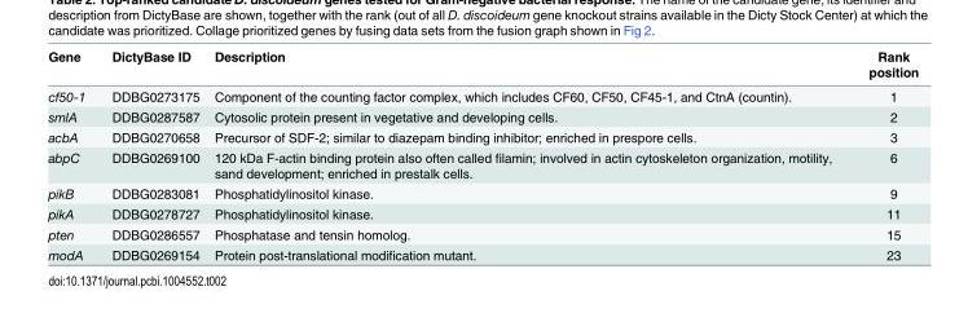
<table><thead><tr><td>Gene</td><td>DictyBase ID</td><td>Description</td><td>Rank position</td></tr></thead><tbody><tr><td>cf50-1</td><td>DDBG0273175</td><td>Component of the counting factor complex, which includes CF60, CF50, CF45-1, and CtnA (countin).</td><td>1</td></tr><tr><td>smlA</td><td>DDBG0287587</td><td>Cytosolic protein present in vegetative and developing cells.</td><td>2</td></tr><tr><td>acbA</td><td>DDBG0270658</td><td>Precursor of SDF-2; similar to diazepam binding inhibitor; enriched in prespore cells.</td><td>3</td></tr><tr><td>abpC</td><td>DDBG0269100</td><td>120 kDa F-actin binding protein also often called filamin; involved in actin cytoskeleton organization, motility, sand development; enriched in prestalk cells.</td><td>6</td></tr><tr><td>pikB</td><td>DDBG0283081</td><td>Phosphatidylinositol kinase.</td><td>9</td></tr><tr><td>pikA</td><td>DDBG0278727</td><td>Phosphatidylinositol kinase.</td><td>11</td></tr><tr><td>pten</td><td>DDBG0286557</td><td>Phosphatase and tensin homolog.</td><td>15</td></tr><tr><td>modA</td><td>DDBG0269154</td><td>Protein post-translational modification mutant.</td><td>23</td></tr></tbody></table>